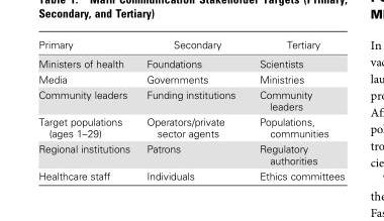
<table><thead><tr><td>Primary</td><td>Secondary</td><td>Tertiary</td></tr></thead><tbody><tr><td>Ministers of health</td><td>Foundations</td><td>Scientists</td></tr><tr><td>Media</td><td>Governments</td><td>Ministries</td></tr><tr><td>Community leaders</td><td>Funding institutions</td><td>Community leaders</td></tr><tr><td>Target populations (ages 1–29)</td><td>Operators/private sector agents</td><td>Populations, communities</td></tr><tr><td>Regional institutions</td><td>Patrons</td><td>Regulatory authorities</td></tr><tr><td>Healthcare staff</td><td>Individuals</td><td>Ethics committees</td></tr></tbody></table>